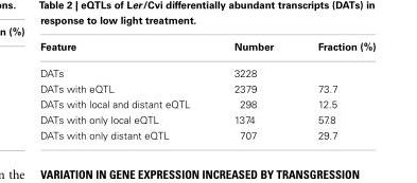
<table><thead><tr><td>Feature</td><td>Number</td><td>Fraction (%)</td></tr></thead><tbody><tr><td>DATs</td><td>3228</td><td></td></tr><tr><td>DATs with eQTL</td><td>2379</td><td>73.7</td></tr><tr><td>DATs with local and distant eQTL</td><td>298</td><td>12.5</td></tr><tr><td>DATs with only local eQTL</td><td>1374</td><td>57.8</td></tr><tr><td>DATs with only distant eQTL</td><td>707</td><td>29.7</td></tr></tbody></table>